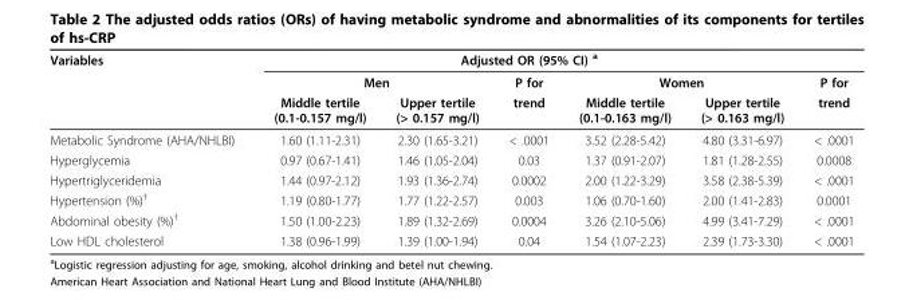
<table><thead><tr><td rowspan="3">Variables</td><td colspan="5">Adjusted OR (95% CI) <sup>a</sup></td><td rowspan="3">P for trend</td></tr><tr><td colspan="2">Men</td><td rowspan="2">P for trend</td><td colspan="2">Women</td></tr><tr><td>Middle tertile (0.1-0.157 mg/l)</td><td>Upper tertile (&gt; 0.157 mg/l)</td><td>Middle tertile (0.1-0.163 mg/l)</td><td>Upper tertile (&gt; 0.163 mg/l)</td></tr></thead><tbody><tr><td>Metabolic Syndrome (AHA/NHLBI)</td><td>1.60 (1.11-2.31)</td><td>2.30 (1.65-3.21)</td><td>&lt; .0001</td><td>3.52 (2.28-5.42)</td><td>4.80 (3.31-6.97)</td><td>&lt; .0001</td></tr><tr><td>Hyperglycemia</td><td>0.97 (0.67-1.41)</td><td>1.46 (1.05-2.04)</td><td>0.03</td><td>1.37 (0.91-2.07)</td><td>1.81 (1.28-2.55)</td><td>0.0008</td></tr><tr><td>Hypertriglyceridemia</td><td>1.44 (0.97-2.12)</td><td>1.93 (1.36-2.74)</td><td>0.0002</td><td>2.00 (1.22-3.29)</td><td>3.58 (2.38-5.39)</td><td>&lt; .0001</td></tr><tr><td>Hypertension (%)<sup>†</sup></td><td>1.19 (0.80-1.77)</td><td>1.77 (1.22-2.57)</td><td>0.003</td><td>1.06 (0.70-1.60)</td><td>2.00 (1.41-2.83)</td><td>0.0001</td></tr><tr><td>Abdominal obesity (%)<sup>†</sup></td><td>1.50 (1.00-2.23)</td><td>1.89 (1.32-2.69)</td><td>0.0004</td><td>3.26 (2.10-5.06)</td><td>4.99 (3.41-7.29)</td><td>&lt; .0001</td></tr><tr><td>Low HDL cholesterol</td><td>1.38 (0.96-1.99)</td><td>1.39 (1.00-1.94)</td><td>0.04</td><td>1.54 (1.07-2.23)</td><td>2.39 (1.73-3.30)</td><td>&lt; .0001</td></tr></tbody></table>